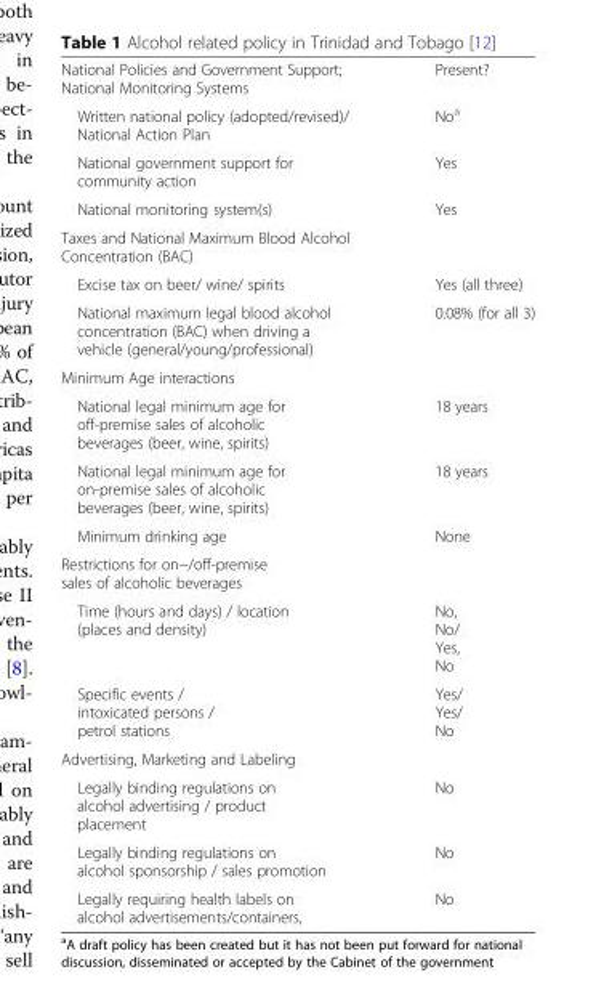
<table><tbody><tr><td>National Policies and Government Support; National Monitoring Systems</td><td>Present?</td></tr><tr><td>Written national policy (adopted/revised)/ National Action Plan</td><td>No<sup>a</sup></td></tr><tr><td>National government support for community action</td><td>Yes</td></tr><tr><td>National monitoring system(s)</td><td>Yes</td></tr><tr><td colspan="2">Taxes and National Maximum Blood Alcohol Concentration (BAC)</td></tr><tr><td>Excise tax on beer/ wine/ spirits</td><td>Yes (all three)</td></tr><tr><td>National maximum legal blood alcohol concentration (BAC) when driving a vehicle (general/young/professional)</td><td>0.08% (for all 3)</td></tr><tr><td colspan="2">Minimum Age interactions</td></tr><tr><td>National legal minimum age for off-premise sales of alcoholic beverages (beer, wine, spirits)</td><td>18 years</td></tr><tr><td>National legal minimum age for on-premise sales of alcoholic beverages (beer, wine, spirits)</td><td>18 years</td></tr><tr><td>Minimum drinking age</td><td>None</td></tr><tr><td colspan="2">Restrictions for on−/off-premise sales of alcoholic beverages</td></tr><tr><td>Time (hours and days) / location (places and density)</td><td>No, No/ Yes, No</td></tr><tr><td>Specific events / intoxicated persons / petrol stations</td><td>Yes/ Yes/ No</td></tr><tr><td colspan="2">Advertising, Marketing and Labeling</td></tr><tr><td>Legally binding regulations on alcohol advertising / product placement</td><td>No</td></tr><tr><td>Legally binding regulations on alcohol sponsorship / sales promotion</td><td>No</td></tr><tr><td>Legally requiring health labels on alcohol advertisements/containers,</td><td>No</td></tr></tbody></table>